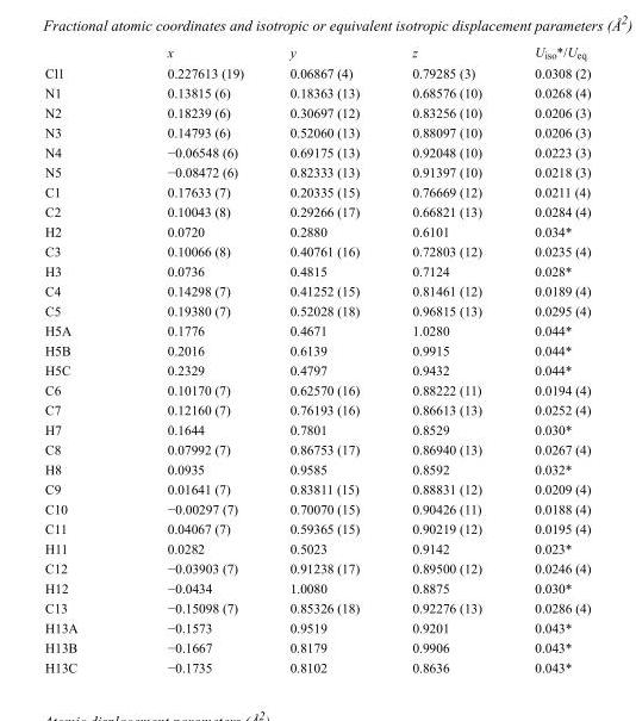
<table><thead><tr><td></td><td>x</td><td>y</td><td>z</td><td>U<sub>iso</sub>*/U<sub>eq</sub></td></tr></thead><tbody><tr><td>Cl1</td><td>0.227613 (19)</td><td>0.06867 (4)</td><td>0.79285 (3)</td><td>0.0308 (2)</td></tr><tr><td>N1</td><td>0.13815 (6)</td><td>0.18363 (13)</td><td>0.68576 (10)</td><td>0.0268 (4)</td></tr><tr><td>N2</td><td>0.18239 (6)</td><td>0.30697 (12)</td><td>0.83256 (10)</td><td>0.0206 (3)</td></tr><tr><td>N3</td><td>0.14793 (6)</td><td>0.52060 (13)</td><td>0.88097 (10)</td><td>0.0206 (3)</td></tr><tr><td>N4</td><td>−0.06548 (6)</td><td>0.69175 (13)</td><td>0.92048 (10)</td><td>0.0223 (3)</td></tr><tr><td>N5</td><td>−0.08472 (6)</td><td>0.82333 (13)</td><td>0.91397 (10)</td><td>0.0218 (3)</td></tr><tr><td>C1</td><td>0.17633 (7)</td><td>0.20335 (15)</td><td>0.76669 (12)</td><td>0.0211 (4)</td></tr><tr><td>C2</td><td>0.10043 (8)</td><td>0.29266 (17)</td><td>0.66821 (13)</td><td>0.0284 (4)</td></tr><tr><td>H2</td><td>0.0720</td><td>0.2880</td><td>0.6101</td><td>0.034*</td></tr><tr><td>C3</td><td>0.10066 (8)</td><td>0.40761 (16)</td><td>0.72803 (12)</td><td>0.0235 (4)</td></tr><tr><td>H3</td><td>0.0736</td><td>0.4815</td><td>0.7124</td><td>0.028*</td></tr><tr><td>C4</td><td>0.14298 (7)</td><td>0.41252 (15)</td><td>0.81461 (12)</td><td>0.0189 (4)</td></tr><tr><td>C5</td><td>0.19380 (7)</td><td>0.52028 (18)</td><td>0.96815 (13)</td><td>0.0295 (4)</td></tr><tr><td>H5A</td><td>0.1776</td><td>0.4671</td><td>1.0280</td><td>0.044*</td></tr><tr><td>H5B</td><td>0.2016</td><td>0.6139</td><td>0.9915</td><td>0.044*</td></tr><tr><td>H5C</td><td>0.2329</td><td>0.4797</td><td>0.9432</td><td>0.044*</td></tr><tr><td>C6</td><td>0.10170 (7)</td><td>0.62570 (16)</td><td>0.88222 (11)</td><td>0.0194 (4)</td></tr><tr><td>C7</td><td>0.12160 (7)</td><td>0.76193 (16)</td><td>0.86613 (13)</td><td>0.0252 (4)</td></tr><tr><td>H7</td><td>0.1644</td><td>0.7801</td><td>0.8529</td><td>0.030*</td></tr><tr><td>C8</td><td>0.07992 (7)</td><td>0.86753 (17)</td><td>0.86940 (13)</td><td>0.0267 (4)</td></tr><tr><td>H8</td><td>0.0935</td><td>0.9585</td><td>0.8592</td><td>0.032*</td></tr><tr><td>C9</td><td>0.01641 (7)</td><td>0.83811 (15)</td><td>0.88831 (12)</td><td>0.0209 (4)</td></tr><tr><td>C10</td><td>−0.00297 (7)</td><td>0.70070 (15)</td><td>0.90426 (11)</td><td>0.0188 (4)</td></tr><tr><td>C11</td><td>0.04067 (7)</td><td>0.59365 (15)</td><td>0.90219 (12)</td><td>0.0195 (4)</td></tr><tr><td>H11</td><td>0.0282</td><td>0.5023</td><td>0.9142</td><td>0.023*</td></tr><tr><td>C12</td><td>−0.03903 (7)</td><td>0.91238 (17)</td><td>0.89500 (12)</td><td>0.0246 (4)</td></tr><tr><td>H12</td><td>−0.0434</td><td>1.0080</td><td>0.8875</td><td>0.030*</td></tr><tr><td>C13</td><td>−0.15098 (7)</td><td>0.85326 (18)</td><td>0.92276 (13)</td><td>0.0286 (4)</td></tr><tr><td>H13A</td><td>−0.1573</td><td>0.9519</td><td>0.9201</td><td>0.043*</td></tr><tr><td>H13B</td><td>−0.1667</td><td>0.8179</td><td>0.9906</td><td>0.043*</td></tr><tr><td>H13C</td><td>−0.1735</td><td>0.8102</td><td>0.8636</td><td>0.043*</td></tr></tbody></table>